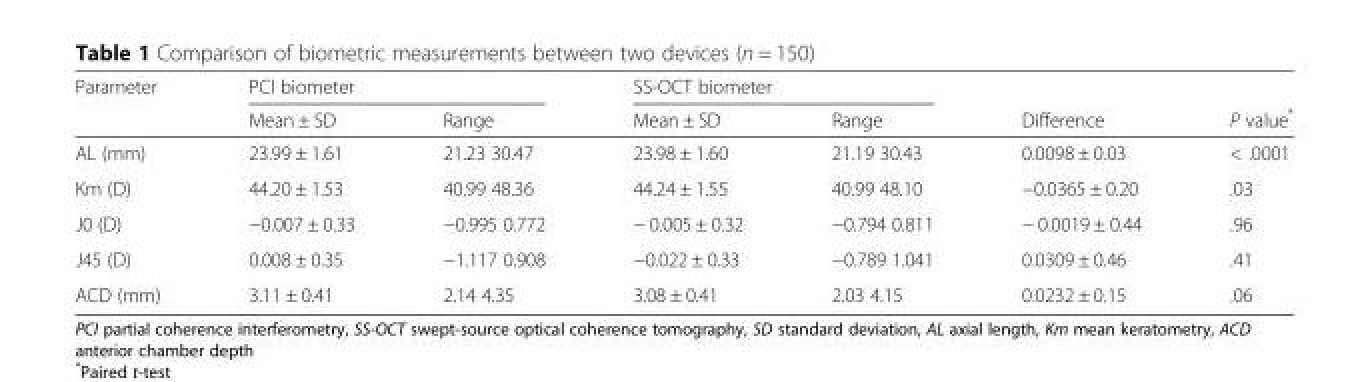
<table><thead><tr><td rowspan="2">Parameter</td><td colspan="2">PCI biometer</td><td colspan="2">SS-OCT biometer</td><td rowspan="2">Difference</td><td rowspan="2">P value*</td></tr><tr><td>Mean ± SD</td><td>Range</td><td>Mean ± SD</td><td>Range</td></tr></thead><tbody><tr><td>AL (mm)</td><td>23.99 ± 1.61</td><td>21.23 30.47</td><td>23.98 ± 1.60</td><td>21.19 30.43</td><td>0.0098 ± 0.03</td><td>&lt; .0001</td></tr><tr><td>Km (D)</td><td>44.20 ± 1.53</td><td>40.99 48.36</td><td>44.24 ± 1.55</td><td>40.99 48.10</td><td>−0.0365 ± 0.20</td><td>.03</td></tr><tr><td>J0 (D)</td><td>−0.007 ± 0.33</td><td>−0.995 0.772</td><td>− 0.005 ± 0.32</td><td>−0.794 0.811</td><td>− 0.0019 ± 0.44</td><td>.96</td></tr><tr><td>J45 (D)</td><td>0.008 ± 0.35</td><td>−1.117 0.908</td><td>−0.022 ± 0.33</td><td>−0.789 1.041</td><td>0.0309 ± 0.46</td><td>.41</td></tr><tr><td>ACD (mm)</td><td>3.11 ± 0.41</td><td>2.14 4.35</td><td>3.08 ± 0.41</td><td>2.03 4.15</td><td>0.0232 ± 0.15</td><td>.06</td></tr></tbody></table>